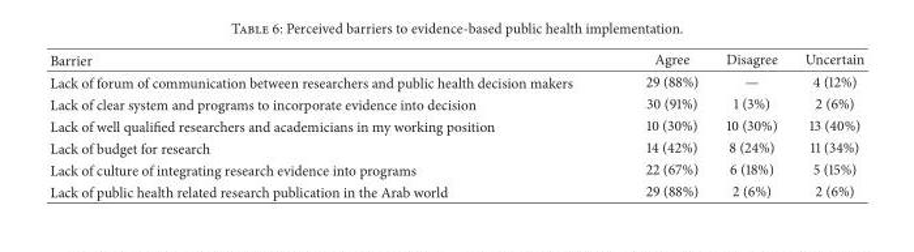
<table><thead><tr><td>Barrier</td><td>Agree</td><td>Disagree</td><td>Uncertain</td></tr></thead><tbody><tr><td>Lack of forum of communication between researchers and public health decision makers</td><td>29 (88%)</td><td>—</td><td>4 (12%)</td></tr><tr><td>Lack of clear system and programs to incorporate evidence into decision</td><td>30 (91%)</td><td>1 (3%)</td><td>2 (6%)</td></tr><tr><td>Lack of well qualified researchers and academicians in my working position</td><td>10 (30%)</td><td>10 (30%)</td><td>13 (40%)</td></tr><tr><td>Lack of budget for research</td><td>14 (42%)</td><td>8 (24%)</td><td>11 (34%)</td></tr><tr><td>Lack of culture of integrating research evidence into programs</td><td>22 (67%)</td><td>6 (18%)</td><td>5 (15%)</td></tr><tr><td>Lack of public health related research publication in the Arab world</td><td>29 (88%)</td><td>2 (6%)</td><td>2 (6%)</td></tr></tbody></table>